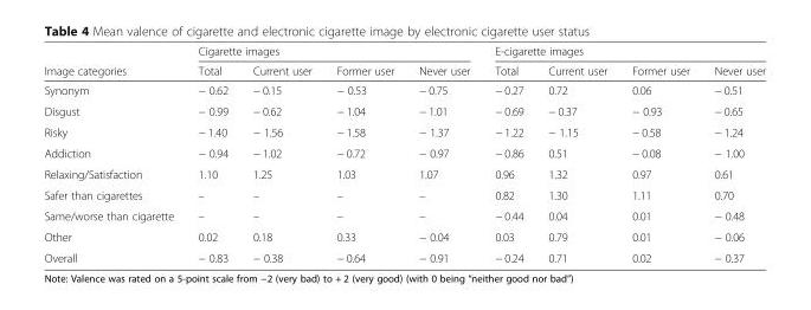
<table><thead><tr><td rowspan="2">Image categories</td><td colspan="4">Cigarette images</td><td colspan="4">E-cigarette images</td></tr><tr><td>Total</td><td>Current user</td><td>Former user</td><td>Never user</td><td>Total</td><td>Current user</td><td>Former user</td><td>Never user</td></tr></thead><tbody><tr><td>Synonym</td><td>− 0.62</td><td>− 0.15</td><td>− 0.53</td><td>− 0.75</td><td>− 0.27</td><td>0.72</td><td>0.06</td><td>− 0.51</td></tr><tr><td>Disgust</td><td>− 0.99</td><td>− 0.62</td><td>− 1.04</td><td>− 1.01</td><td>− 0.69</td><td>− 0.37</td><td>− 0.93</td><td>− 0.65</td></tr><tr><td>Risky</td><td>− 1.40</td><td>− 1.56</td><td>− 1.58</td><td>− 1.37</td><td>− 1.22</td><td>− 1.15</td><td>− 0.58</td><td>− 1.24</td></tr><tr><td>Addiction</td><td>− 0.94</td><td>− 1.02</td><td>− 0.72</td><td>− 0.97</td><td>− 0.86</td><td>0.51</td><td>− 0.08</td><td>− 1.00</td></tr><tr><td>Relaxing/Satisfaction</td><td>1.10</td><td>1.25</td><td>1.03</td><td>1.07</td><td>0.96</td><td>1.32</td><td>0.97</td><td>0.61</td></tr><tr><td>Safer than cigarettes</td><td>–</td><td>–</td><td>–</td><td>–</td><td>0.82</td><td>1.30</td><td>1.11</td><td>0.70</td></tr><tr><td>Same/worse than cigarette</td><td>–</td><td>–</td><td>–</td><td>–</td><td>− 0.44</td><td>0.04</td><td>0.01</td><td>− 0.48</td></tr><tr><td>Other</td><td>0.02</td><td>0.18</td><td>0.33</td><td>− 0.04</td><td>0.03</td><td>0.79</td><td>0.01</td><td>− 0.06</td></tr><tr><td>Overall</td><td>− 0.83</td><td>− 0.38</td><td>− 0.64</td><td>− 0.91</td><td>− 0.24</td><td>0.71</td><td>0.02</td><td>− 0.37</td></tr></tbody></table>